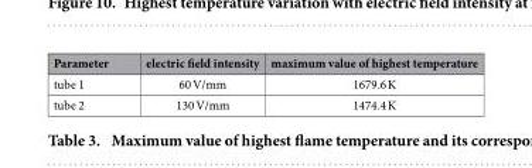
<table><thead><tr><td>Parameter</td><td>electric field intensity</td><td>maximum value of highest temperature</td></tr></thead><tbody><tr><td>tube 1</td><td>60 V/mm</td><td>1679.6 K</td></tr><tr><td>tube 2</td><td>130 V/mm</td><td>1474.4 K</td></tr></tbody></table>